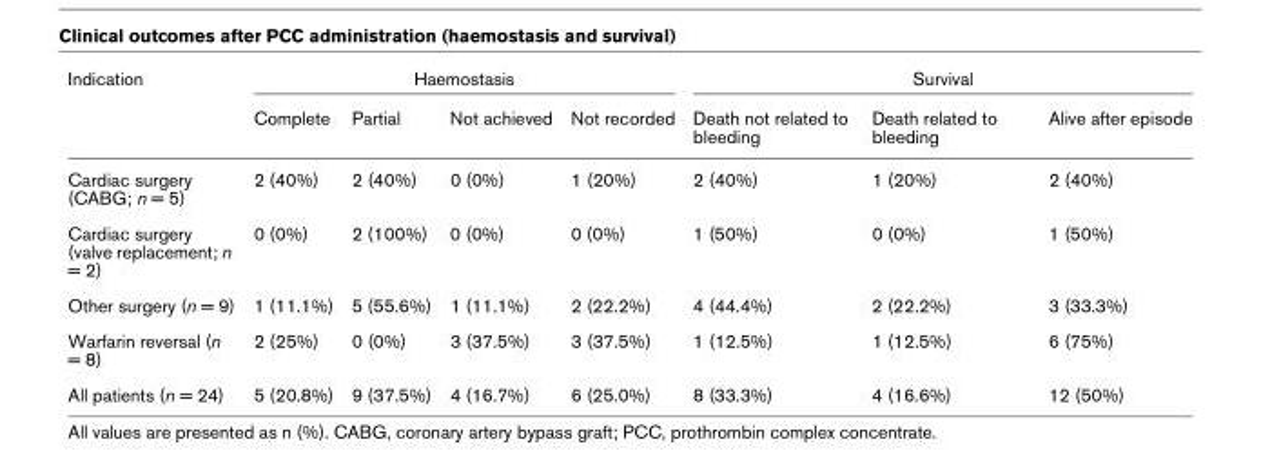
<table><thead><tr><td rowspan="2">Indication</td><td colspan="4">Haemostasis</td><td colspan="3">Survival</td></tr><tr><td>Complete</td><td>Partial</td><td>Not achieved</td><td>Not recorded</td><td>Death not related to bleeding</td><td>Death related to bleeding</td><td>Alive after episode</td></tr></thead><tbody><tr><td>Cardiac surgery (CABG; n = 5)</td><td>2 (40%)</td><td>2 (40%)</td><td>0 (0%)</td><td>1 (20%)</td><td>2 (40%)</td><td>1 (20%)</td><td>2 (40%)</td></tr><tr><td>Cardiac surgery (valve replacement; n = 2)</td><td>0 (0%)</td><td>2 (100%)</td><td>0 (0%)</td><td>0 (0%)</td><td>1 (50%)</td><td>0 (0%)</td><td>1 (50%)</td></tr><tr><td>Other surgery (n = 9)</td><td>1 (11.1%)</td><td>5 (55.6%)</td><td>1 (11.1%)</td><td>2 (22.2%)</td><td>4 (44.4%)</td><td>2 (22.2%)</td><td>3 (33.3%)</td></tr><tr><td>Warfarin reversal (n = 8)</td><td>2 (25%)</td><td>0 (0%)</td><td>3 (37.5%)</td><td>3 (37.5%)</td><td>1 (12.5%)</td><td>1 (12.5%)</td><td>6 (75%)</td></tr><tr><td>All patients (n = 24)</td><td>5 (20.8%)</td><td>9 (37.5%)</td><td>4 (16.7%)</td><td>6 (25.0%)</td><td>8 (33.3%)</td><td>4 (16.6%)</td><td>12 (50%)</td></tr></tbody></table>